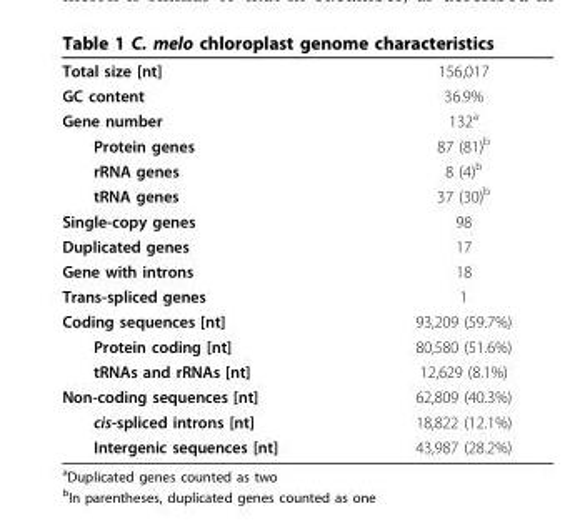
<table><tbody><tr><td>Total size [nt]</td><td>156,017</td></tr><tr><td>GC content</td><td>36.9%</td></tr><tr><td>Gene number</td><td>132<sup>a</sup></td></tr><tr><td>Protein genes</td><td>87 (81)<sup>b</sup></td></tr><tr><td>rRNA genes</td><td>8 (4)<sup>b</sup></td></tr><tr><td>tRNA genes</td><td>37 (30)<sup>b</sup></td></tr><tr><td>Single-copy genes</td><td>98</td></tr><tr><td>Duplicated genes</td><td>17</td></tr><tr><td>Gene with introns</td><td>18</td></tr><tr><td>Trans-spliced genes</td><td>1</td></tr><tr><td>Coding sequences [nt]</td><td>93,209 (59.7%)</td></tr><tr><td>Protein coding [nt]</td><td>80,580 (51.6%)</td></tr><tr><td>tRNAs and rRNAs [nt]</td><td>12,629 (8.1%)</td></tr><tr><td>Non-coding sequences [nt]</td><td>62,809 (40.3%)</td></tr><tr><td>cis-spliced introns [nt]</td><td>18,822 (12.1%)</td></tr><tr><td>Intergenic sequences [nt]</td><td>43,987 (28.2%)</td></tr></tbody></table>